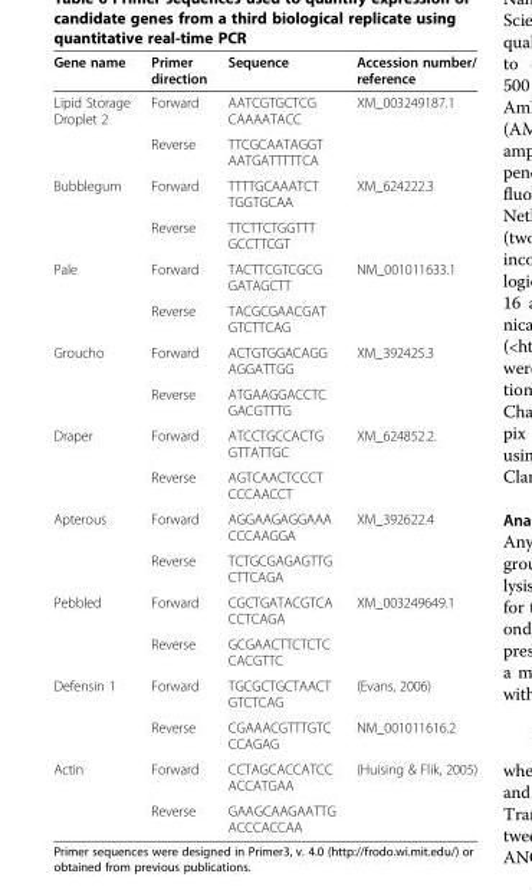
<table><thead><tr><td>Gene name</td><td>Primer direction</td><td>Sequence</td><td>Accession number/ reference</td></tr></thead><tbody><tr><td rowspan="2">Lipid Storage Droplet 2</td><td>Forward</td><td>AATCGTGCTCG CAAAATACC</td><td rowspan="2">XM_003249187.1</td></tr><tr><td>Reverse</td><td>TTCGCAATAGGT AATGATTTTTCA</td></tr><tr><td rowspan="2">Bubblegum</td><td>Forward</td><td>TTTTGCAAATCT TGGTGCAA</td><td rowspan="2">XM_624222.3</td></tr><tr><td>Reverse</td><td>TTCTTCTGGTTT GCCTTCGT</td></tr><tr><td rowspan="2">Pale</td><td>Forward</td><td>TACTTCGTCGCG GATAGCTT</td><td rowspan="2">NM_001011633.1</td></tr><tr><td>Reverse</td><td>TACGCGAACGAT GTCTTCAG</td></tr><tr><td rowspan="2">Groucho</td><td>Forward</td><td>ACTGTGGACAGG AGGATTGG</td><td rowspan="2">XM_392425.3</td></tr><tr><td>Reverse</td><td>ATGAAGGACCTC GACGTTTG</td></tr><tr><td rowspan="2">Draper</td><td>Forward</td><td>ATCCTGCCACTG GTTATTGC</td><td rowspan="2">XM_624852.2.</td></tr><tr><td>Reverse</td><td>AGTCAACTCCCT CCCAACCT</td></tr><tr><td rowspan="2">Apterous</td><td>Forward</td><td>AGGAAGAGGAAA CCCAAGGA</td><td rowspan="2">XM_392622.4</td></tr><tr><td>Reverse</td><td>TCTGCGAGAGTTG CTTCAGA</td></tr><tr><td rowspan="2">Pebbled</td><td>Forward</td><td>CGCTGATACGTCA CCTCAGA</td><td rowspan="2">XM_003249649.1</td></tr><tr><td>Reverse</td><td>GCGAACTTCTCTC CACGTTC</td></tr><tr><td rowspan="2">Defensin 1</td><td>Forward</td><td>TGCGCTGCTAACT GTCTCAG</td><td>(Evans, 2006)</td></tr><tr><td>Reverse</td><td>CGAAACGTTTGTC CCAGAG</td><td>NM_001011616.2</td></tr><tr><td rowspan="2">Actin</td><td>Forward</td><td>CCTAGCACCATCC ACCATGAA</td><td rowspan="2">(Huising &amp; Flik, 2005)</td></tr><tr><td>Reverse</td><td>GAAGCAAGAATTG ACCCACCAA</td></tr></tbody></table>